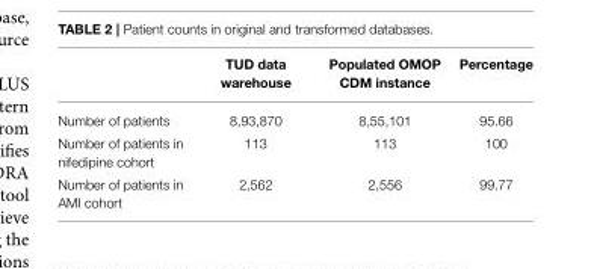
<table><thead><tr><td></td><td>TUD data warehouse</td><td>Populated OMOP CDM instance</td><td>Percentage</td></tr></thead><tbody><tr><td>Number of patients</td><td>8,93,870</td><td>8,55,101</td><td>95.66</td></tr><tr><td>Number of patients in nifedipine cohort</td><td>113</td><td>113</td><td>100</td></tr><tr><td>Number of patients in AMI cohort</td><td>2,562</td><td>2,556</td><td>99.77</td></tr></tbody></table>